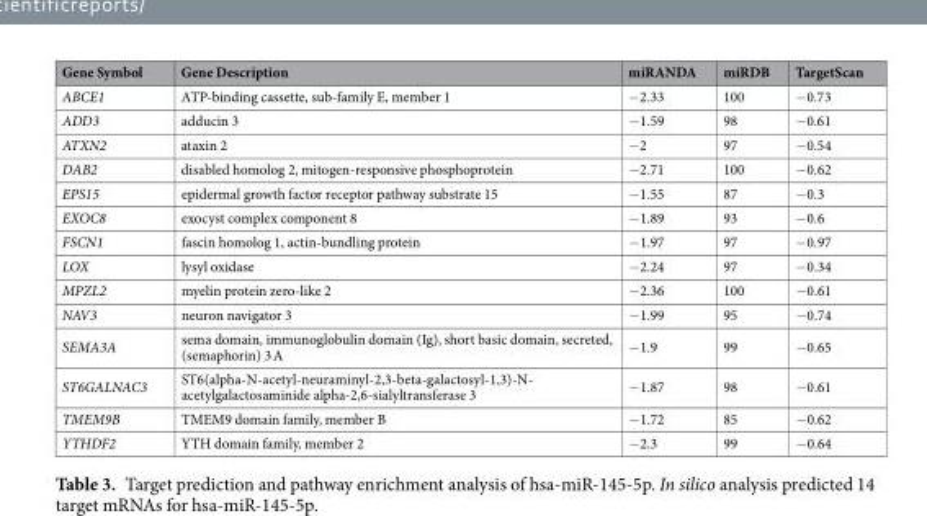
<table><thead><tr><td>Gene Symbol</td><td>Gene Description</td><td>miRANDA</td><td>miRDB</td><td>TargetScan</td></tr></thead><tbody><tr><td>ABCE1</td><td>ATP-binding cassette, sub-family E, member 1</td><td>−2.33</td><td>100</td><td>−0.73</td></tr><tr><td>ADD3</td><td>adducin 3</td><td>−1.59</td><td>98</td><td>−0.61</td></tr><tr><td>ATXN2</td><td>ataxin 2</td><td>−2</td><td>97</td><td>−0.54</td></tr><tr><td>DAB2</td><td>disabled homolog 2, mitogen-responsive phosphoprotein</td><td>−2.71</td><td>100</td><td>−0.62</td></tr><tr><td>EPS15</td><td>epidermal growth factor receptor pathway substrate 15</td><td>−1.55</td><td>87</td><td>−0.3</td></tr><tr><td>EXOC8</td><td>exocyst complex component 8</td><td>−1.89</td><td>93</td><td>−0.6</td></tr><tr><td>FSCN1</td><td>fascin homolog 1, actin-bundling protein</td><td>−1.97</td><td>97</td><td>−0.97</td></tr><tr><td>LOX</td><td>lysyl oxidase</td><td>−2.24</td><td>97</td><td>−0.34</td></tr><tr><td>MPZL2</td><td>myelin protein zero-like 2</td><td>−2.36</td><td>100</td><td>−0.61</td></tr><tr><td>NAV3</td><td>neuron navigator 3</td><td>−1.99</td><td>95</td><td>−0.74</td></tr><tr><td>SEMA3A</td><td>sema domain, immunoglobulin domain (Ig), short basic domain, secreted, (semaphorin) 3 A</td><td>−1.9</td><td>99</td><td>−0.65</td></tr><tr><td>ST6GALNAC3</td><td>ST6(alpha-N-acetyl-neuraminyl-2,3-beta-galactosyl-1,3)-N- acetylgalactosaminide alpha-2,6-sialyltransferase 3</td><td>−1.87</td><td>98</td><td>−0.61</td></tr><tr><td>TMEM9B</td><td>TMEM9 domain family, member B</td><td>−1.72</td><td>85</td><td>−0.62</td></tr><tr><td>YTHDF2</td><td>YTH domain family, member 2</td><td>−2.3</td><td>99</td><td>−0.64</td></tr></tbody></table>